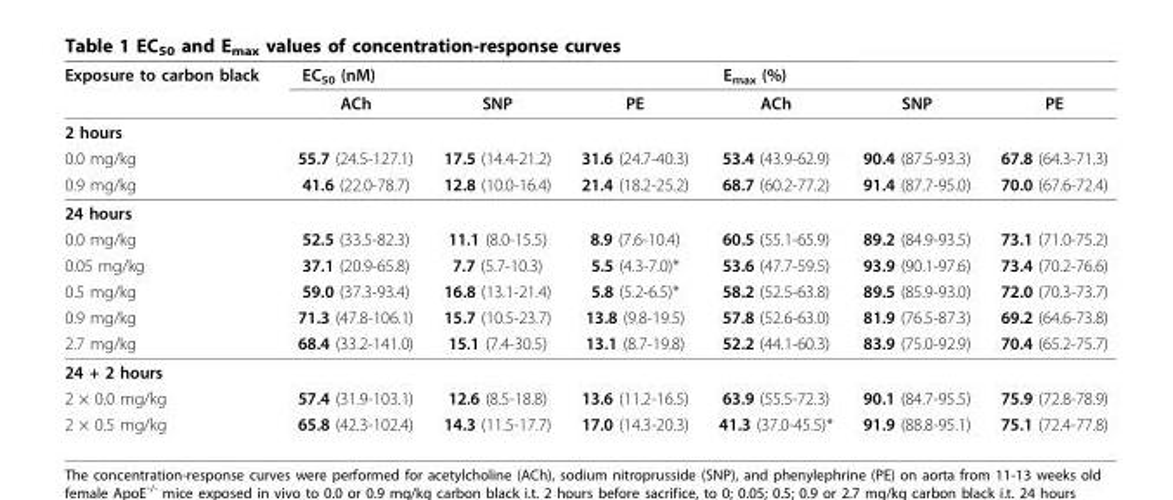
<table><thead><tr><td rowspan="2">Exposure to carbon black</td><td rowspan="2">EC<sub>50</sub> (nM) ACh</td><td rowspan="2">SNP</td><td rowspan="2">PE</td><td rowspan="2">E<sub>max</sub> (%) ACh</td><td rowspan="2">SNP</td><td rowspan="2">PE</td></tr><tr></tr></thead><tbody><tr><td colspan="7">2 hours</td></tr><tr><td>0.0 mg/kg</td><td>55.7 (24.5-127.1)</td><td>17.5 (14.4-21.2)</td><td>31.6 (24.7-40.3)</td><td>53.4 (43.9-62.9)</td><td>90.4 (87.5-93.3)</td><td>67.8 (64.3-71.3)</td></tr><tr><td>0.9 mg/kg</td><td>41.6 (22.0-78.7)</td><td>12.8 (10.0-16.4)</td><td>21.4 (18.2-25.2)</td><td>68.7 (60.2-77.2)</td><td>91.4 (87.7-95.0)</td><td>70.0 (67.6-72.4)</td></tr><tr><td colspan="7">24 hours</td></tr><tr><td>0.0 mg/kg</td><td>52.5 (33.5-82.3)</td><td>11.1 (8.0-15.5)</td><td>8.9 (7.6-10.4)</td><td>60.5 (55.1-65.9)</td><td>89.2 (84.9-93.5)</td><td>73.1 (71.0-75.2)</td></tr><tr><td>0.05 mg/kg</td><td>37.1 (20.9-65.8)</td><td>7.7 (5.7-10.3)</td><td>5.5 (4.3-7.0)*</td><td>53.6 (47.7-59.5)</td><td>93.9 (90.1-97.6)</td><td>73.4 (70.2-76.6)</td></tr><tr><td>0.5 mg/kg</td><td>59.0 (37.3-93.4)</td><td>16.8 (13.1-21.4)</td><td>5.8 (5.2-6.5)*</td><td>58.2 (52.5-63.8)</td><td>89.5 (85.9-93.0)</td><td>72.0 (70.3-73.7)</td></tr><tr><td>0.9 mg/kg</td><td>71.3 (47.8-106.1)</td><td>15.7 (10.5-23.7)</td><td>13.8 (9.8-19.5)</td><td>57.8 (52.6-63.0)</td><td>81.9 (76.5-87.3)</td><td>69.2 (64.6-73.8)</td></tr><tr><td>2.7 mg/kg</td><td>68.4 (33.2-141.0)</td><td>15.1 (7.4-30.5)</td><td>13.1 (8.7-19.8)</td><td>52.2 (44.1-60.3)</td><td>83.9 (75.0-92.9)</td><td>70.4 (65.2-75.7)</td></tr><tr><td colspan="7">24 + 2 hours</td></tr><tr><td>2 × 0.0 mg/kg</td><td>57.4 (31.9-103.1)</td><td>12.6 (8.5-18.8)</td><td>13.6 (11.2-16.5)</td><td>63.9 (55.5-72.3)</td><td>90.1 (84.7-95.5)</td><td>75.9 (72.8-78.9)</td></tr><tr><td>2 × 0.5 mg/kg</td><td>65.8 (42.3-102.4)</td><td>14.3 (11.5-17.7)</td><td>17.0 (14.3-20.3)</td><td>41.3 (37.0-45.5)*</td><td>91.9 (88.8-95.1)</td><td>75.1 (72.4-77.8)</td></tr></tbody></table>